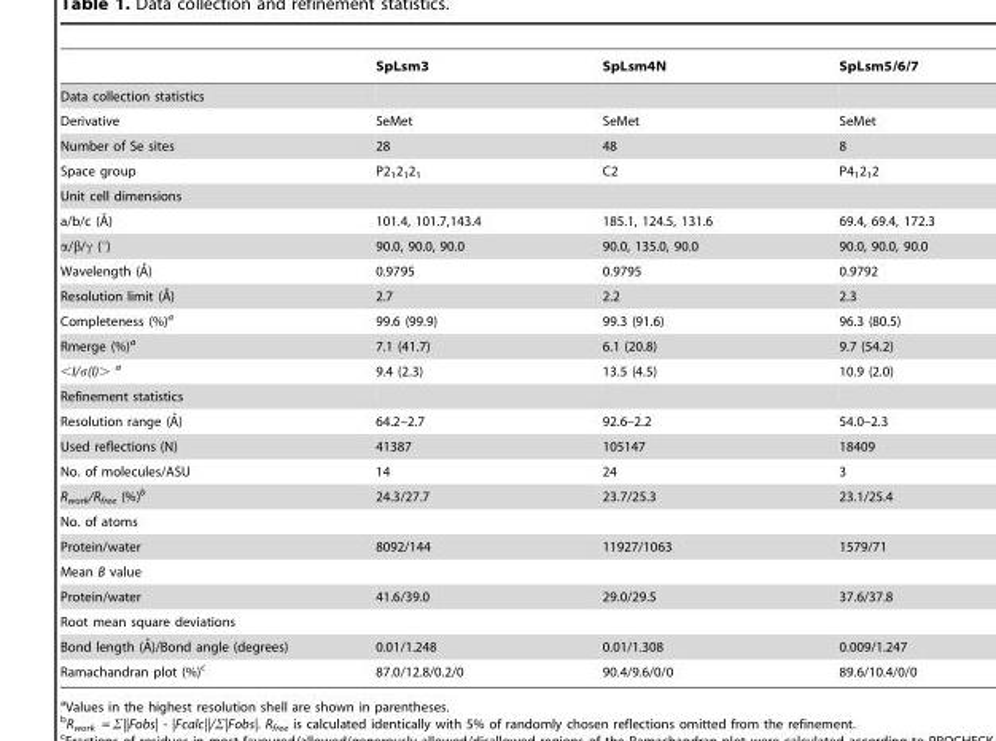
<table><thead><tr><td></td><td>SpLsm3</td><td>SpLsm4N</td><td>SpLsm5/6/7</td></tr></thead><tbody><tr><td colspan="4">Data collection statistics</td></tr><tr><td>Derivative</td><td>SeMet</td><td>SeMet</td><td>SeMet</td></tr><tr><td>Number of Se sites</td><td>28</td><td>48</td><td>8</td></tr><tr><td>Space group</td><td>P2<sub>1</sub>2<sub>1</sub>2<sub>1</sub></td><td>C2</td><td>P4<sub>1</sub>2<sub>1</sub>2</td></tr><tr><td colspan="4">Unit cell dimensions</td></tr><tr><td>a/b/c (A˚)</td><td>101.4, 101.7,143.4</td><td>185.1, 124.5, 131.6</td><td>69.4, 69.4, 172.3</td></tr><tr><td>α/β/γ (°)</td><td>90.0, 90.0, 90.0</td><td>90.0, 135.0, 90.0</td><td>90.0, 90.0, 90.0</td></tr><tr><td>Wavelength (A˚)</td><td>0.9795</td><td>0.9795</td><td>0.9792</td></tr><tr><td>Resolution limit (A˚)</td><td>2.7</td><td>2.2</td><td>2.3</td></tr><tr><td>Completeness (%)<sup>a</sup></td><td>99.6 (99.9)</td><td>99.3 (91.6)</td><td>96.3 (80.5)</td></tr><tr><td>Rmerge (%)<sup>a</sup></td><td>7.1 (41.7)</td><td>6.1 (20.8)</td><td>9.7 (54.2)</td></tr><tr><td>&lt;I/σ(I)&gt; a</td><td>9.4 (2.3)</td><td>13.5 (4.5)</td><td>10.9 (2.0)</td></tr><tr><td colspan="4">Refinement statistics</td></tr><tr><td>Resolution range (A˚)</td><td>64.2–2.7</td><td>92.6–2.2</td><td>54.0–2.3</td></tr><tr><td>Used reflections (N)</td><td>41387</td><td>105147</td><td>18409</td></tr><tr><td>No. of molecules/ASU</td><td>14</td><td>24</td><td>3</td></tr><tr><td>R<sub>work</sub>/R<sub>free</sub> (%)<sup>b</sup></td><td>24.3/27.7</td><td>23.7/25.3</td><td>23.1/25.4</td></tr><tr><td colspan="4">No. of atoms</td></tr><tr><td>Protein/water</td><td>8092/144</td><td>11927/1063</td><td>1579/71</td></tr><tr><td colspan="4">Mean B value</td></tr><tr><td>Protein/water</td><td>41.6/39.0</td><td>29.0/29.5</td><td>37.6/37.8</td></tr><tr><td colspan="4">Root mean square deviations</td></tr><tr><td>Bond length (A˚)/Bond angle (degrees)</td><td>0.01/1.248</td><td>0.01/1.308</td><td>0.009/1.247</td></tr><tr><td>Ramachandran plot (%)<sup>c</sup></td><td>87.0/12.8/0.2/0</td><td>90.4/9.6/0/0</td><td>89.6/10.4/0/0</td></tr></tbody></table>